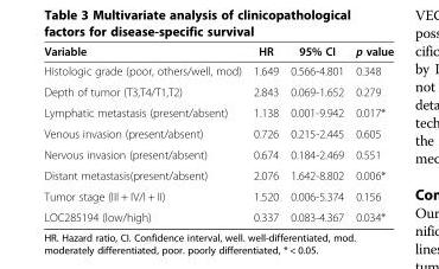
<table><thead><tr><td>Variable</td><td>HR</td><td>95% CI</td><td>p value</td></tr></thead><tbody><tr><td>Histologic grade (poor, others/well, mod)</td><td>1.649</td><td>0.566-4.801</td><td>0.348</td></tr><tr><td>Depth of tumor (T3,T4/T1,T2)</td><td>2.843</td><td>0.069-1.652</td><td>0.279</td></tr><tr><td>Lymphatic metastasis (present/absent)</td><td>1.138</td><td>0.001-9.942</td><td>0.017*</td></tr><tr><td>Venous invasion (present/absent)</td><td>0.726</td><td>0.215-2.445</td><td>0.605</td></tr><tr><td>Nervous invasion (present/absent)</td><td>0.674</td><td>0.184-2.469</td><td>0.551</td></tr><tr><td>Distant metastasis(present/absent)</td><td>2.076</td><td>1.642-8.802</td><td>0.006*</td></tr><tr><td>Tumor stage (III + IV/I + II)</td><td>1.520</td><td>0.006-5.374</td><td>0.156</td></tr><tr><td>LOC285194 (low/high)</td><td>0.337</td><td>0.083-4.367</td><td>0.034*</td></tr></tbody></table>